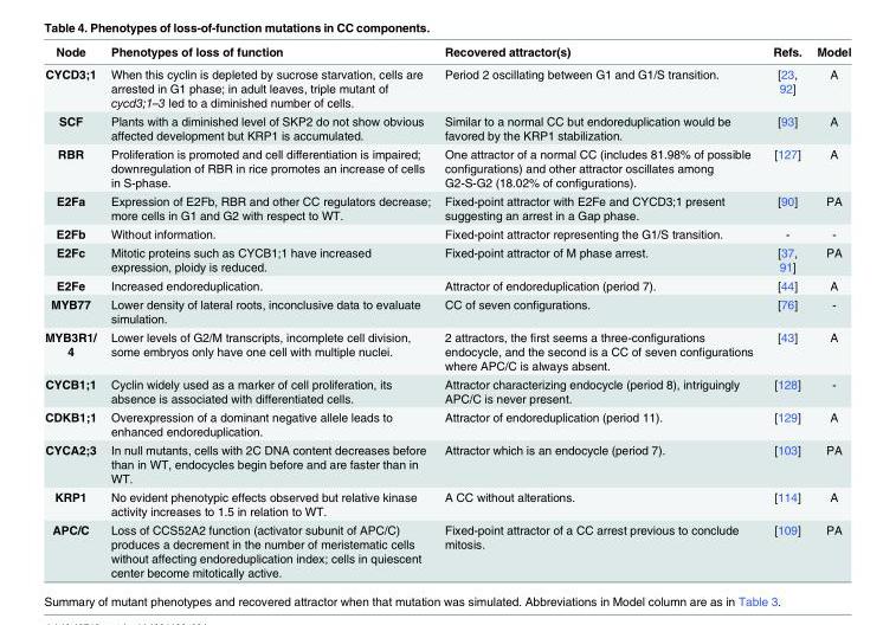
<table><thead><tr><td>Node</td><td>Phenotypes of loss of function</td><td>Recovered attractor(s)</td><td>Refs.</td><td>Model</td></tr></thead><tbody><tr><td>CYCD3;1</td><td>When this cyclin is depleted by sucrose starvation, cells are arrested in G1 phase; in adult leaves, triple mutant of cycd3;1–3 led to a diminished number of cells.</td><td>Period 2 oscillating between G1 and G1/S transition.</td><td>[23, 92]</td><td>A</td></tr><tr><td>SCF</td><td>Plants with a diminished level of SKP2 do not show obvious affected development but KRP1 is accumulated.</td><td>Similar to a normal CC but endoreduplication would be favored by the KRP1 stabilization.</td><td>[93]</td><td>A</td></tr><tr><td>RBR</td><td>Proliferation is promoted and cell differentiation is impaired; downregulation of RBR in rice promotes an increase of cells in S-phase.</td><td>One attractor of a normal CC (includes 81.98% of possible configurations) and other attractor oscillates among G2-S-G2 (18.02% of configurations).</td><td>[127]</td><td>A</td></tr><tr><td>E2Fa</td><td>Expression of E2Fb, RBR and other CC regulators decrease; more cells in G1 and G2 with respect to WT.</td><td>Fixed-point attractor with E2Fe and CYCD3;1 present suggesting an arrest in a Gap phase.</td><td>[90]</td><td>PA</td></tr><tr><td>E2Fb</td><td>Without information.</td><td>Fixed-point attractor representing the G1/S transition.</td><td>-</td><td>-</td></tr><tr><td>E2Fc</td><td>Mitotic proteins such as CYCB1;1 have increased expression, ploidy is reduced.</td><td>Fixed-point attractor of M phase arrest.</td><td>[37, 91]</td><td>PA</td></tr><tr><td>E2Fe</td><td>Increased endoreduplication.</td><td>Attractor of endoreduplication (period 7).</td><td>[44]</td><td>A</td></tr><tr><td>MYB77</td><td>Lower density of lateral roots, inconclusive data to evaluate simulation.</td><td>CC of seven configurations.</td><td>[76]</td><td>-</td></tr><tr><td>MYB3R1/ 4</td><td>Lower levels of G2/M transcripts, incomplete cell division, some embryos only have one cell with multiple nuclei.</td><td>2 attractors, the first seems a three-configurations endocycle, and the second is a CC of seven configurations where APC/C is always absent.</td><td>[43]</td><td>A</td></tr><tr><td>CYCB1;1</td><td>Cyclin widely used as a marker of cell proliferation, its absence is associated with differentiated cells.</td><td>Attractor characterizing endocycle (period 8), intriguingly APC/C is never present.</td><td>[128]</td><td>-</td></tr><tr><td>CDKB1;1</td><td>Overexpression of a dominant negative allele leads to enhanced endoreduplication.</td><td>Attractor of endoreduplication (period 11).</td><td>[129]</td><td>A</td></tr><tr><td>CYCA2;3</td><td>In null mutants, cells with 2C DNA content decreases before than in WT, endocycles begin before and are faster than in WT.</td><td>Attractor which is an endocycle (period 7).</td><td>[103]</td><td>PA</td></tr><tr><td>KRP1</td><td>No evident phenotypic effects observed but relative kinase activity increases to 1.5 in relation to WT.</td><td>A CC without alterations.</td><td>[114]</td><td>A</td></tr><tr><td>APC/C</td><td>Loss of CCS52A2 function (activator subunit of APC/C) produces a decrement in the number of meristematic cells without affecting endoreduplication index; cells in quiescent center become mitotically active.</td><td>Fixed-point attractor of a CC arrest previous to conclude mitosis.</td><td>[109]</td><td>PA</td></tr></tbody></table>